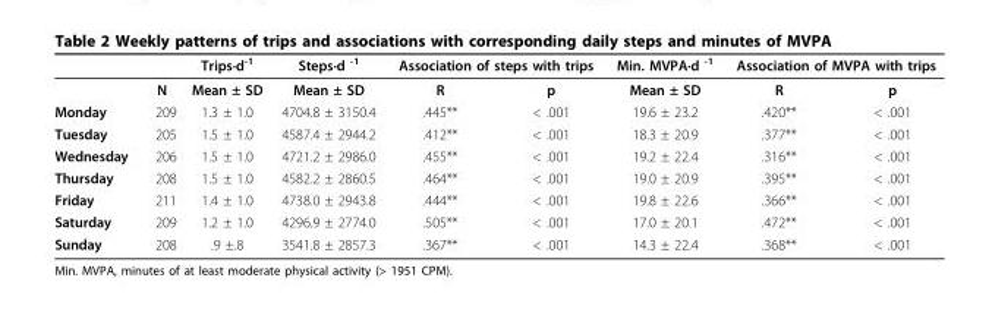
<table><thead><tr><td rowspan="2"></td><td rowspan="2">N</td><td rowspan="2">Trips·d<sup>-1</sup> Mean ± SD</td><td rowspan="2">Steps·d <sup>-1</sup> Mean ± SD</td><td colspan="2">Association of steps with trips</td><td rowspan="2">Min. MVPA·d <sup>-1</sup> Mean ± SD</td><td colspan="2">Association of MVPA with trips</td></tr><tr><td>R</td><td>p</td><td>R</td><td>p</td></tr></thead><tbody><tr><td>Monday</td><td>209</td><td>1.3 ± 1.0</td><td>4704.8 ± 3150.4</td><td>.445**</td><td>&lt; .001</td><td>19.6 ± 23.2</td><td>.420**</td><td>&lt; .001</td></tr><tr><td>Tuesday</td><td>205</td><td>1.5 ± 1.0</td><td>4587.4 ± 2944.2</td><td>.412**</td><td>&lt; .001</td><td>18.3 ± 20.9</td><td>.377**</td><td>&lt; .001</td></tr><tr><td>Wednesday</td><td>206</td><td>1.5 ± 1.0</td><td>4721.2 ± 2986.0</td><td>.455**</td><td>&lt; .001</td><td>19.2 ± 22.4</td><td>.316**</td><td>&lt; .001</td></tr><tr><td>Thursday</td><td>208</td><td>1.5 ± 1.0</td><td>4582.2 ± 2860.5</td><td>.464**</td><td>&lt; .001</td><td>19.0 ± 20.9</td><td>.395**</td><td>&lt; .001</td></tr><tr><td>Friday</td><td>211</td><td>1.4 ± 1.0</td><td>4738.0 ± 2943.8</td><td>.444**</td><td>&lt; .001</td><td>19.8 ± 22.6</td><td>.366**</td><td>&lt; .001</td></tr><tr><td>Saturday</td><td>209</td><td>1.2 ± 1.0</td><td>4296.9 ± 2774.0</td><td>.505**</td><td>&lt; .001</td><td>17.0 ± 20.1</td><td>.472**</td><td>&lt; .001</td></tr><tr><td>Sunday</td><td>208</td><td>.9 ±.8</td><td>3541.8 ± 2857.3</td><td>.367**</td><td>&lt; .001</td><td>14.3 ± 22.4</td><td>.368**</td><td>&lt; .001</td></tr></tbody></table>